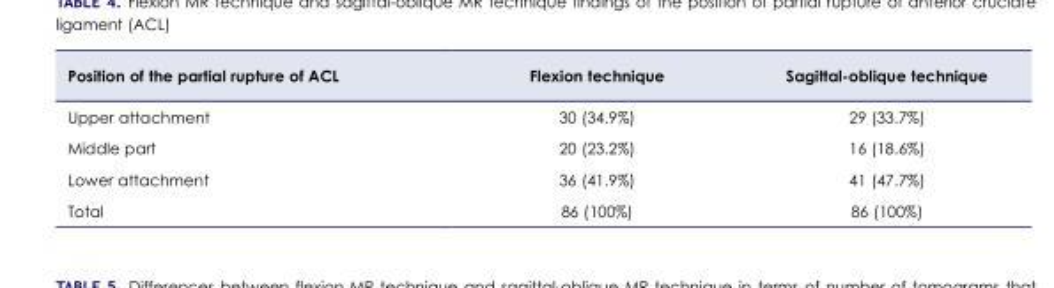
<table><thead><tr><td>Position of the partial rupture of ACL</td><td>Flexion technique</td><td>Sagittal-oblique technique</td></tr></thead><tbody><tr><td>Upper attachment</td><td>30 (34.9%)</td><td>29 (33.7%)</td></tr><tr><td>Middle part</td><td>20 (23.2%)</td><td>16 (18.6%)</td></tr><tr><td>Lower attachment</td><td>36 (41.9%)</td><td>41 (47.7%)</td></tr><tr><td>Total</td><td>86 (100%)</td><td>86 (100%)</td></tr></tbody></table>